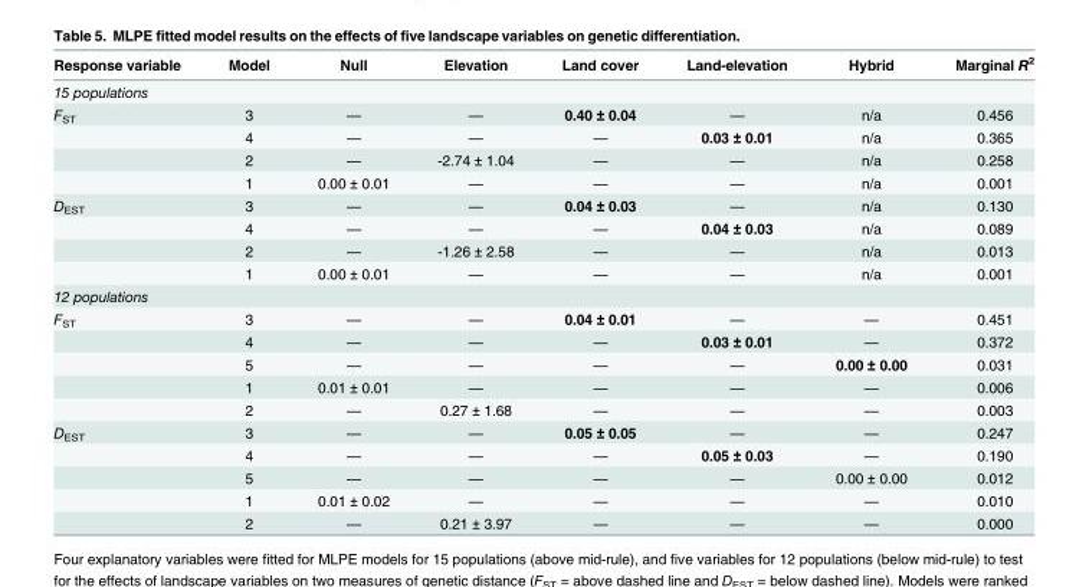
<table><thead><tr><td>Response variable</td><td>Model</td><td>Null</td><td>Elevation</td><td>Land cover</td><td>Land-elevation</td><td>Hybrid</td><td>Marginal R<sup>2</sup></td></tr></thead><tbody><tr><td colspan="8">15 populations</td></tr><tr><td rowspan="4">F<sub>ST</sub></td><td>3</td><td>—</td><td>—</td><td>0.40 ± 0.04</td><td>—</td><td>n/a</td><td>0.456</td></tr><tr><td>4</td><td>—</td><td>—</td><td>—</td><td>0.03 ± 0.01</td><td>n/a</td><td>0.365</td></tr><tr><td>2</td><td>—</td><td>-2.74 ± 1.04</td><td>—</td><td>—</td><td>n/a</td><td>0.258</td></tr><tr><td>1</td><td>0.00 ± 0.01</td><td>—</td><td>—</td><td>—</td><td>n/a</td><td>0.001</td></tr><tr><td rowspan="4">D<sub>EST</sub></td><td>3</td><td>—</td><td>—</td><td>0.04 ± 0.03</td><td>—</td><td>n/a</td><td>0.130</td></tr><tr><td>4</td><td>—</td><td>—</td><td>—</td><td>0.04 ± 0.03</td><td>n/a</td><td>0.089</td></tr><tr><td>2</td><td>—</td><td>-1.26 ± 2.58</td><td>—</td><td>—</td><td>n/a</td><td>0.013</td></tr><tr><td>1</td><td>0.00 ± 0.01</td><td>—</td><td>—</td><td>—</td><td>n/a</td><td>0.001</td></tr><tr><td colspan="8">12 populations</td></tr><tr><td rowspan="5">F<sub>ST</sub></td><td>3</td><td>—</td><td>—</td><td>0.04 ± 0.01</td><td>—</td><td>—</td><td>0.451</td></tr><tr><td>4</td><td>—</td><td>—</td><td>—</td><td>0.03 ± 0.01</td><td>—</td><td>0.372</td></tr><tr><td>5</td><td>—</td><td>—</td><td>—</td><td>—</td><td>0.00 ± 0.00</td><td>0.031</td></tr><tr><td>1</td><td>0.01 ± 0.01</td><td>—</td><td>—</td><td>—</td><td>—</td><td>0.006</td></tr><tr><td>2</td><td>—</td><td>0.27 ± 1.68</td><td>—</td><td>—</td><td>—</td><td>0.003</td></tr><tr><td rowspan="5">D<sub>EST</sub></td><td>3</td><td>—</td><td>—</td><td>0.05 ± 0.05</td><td>—</td><td>—</td><td>0.247</td></tr><tr><td>4</td><td>—</td><td>—</td><td>—</td><td>0.05 ± 0.03</td><td>—</td><td>0.190</td></tr><tr><td>5</td><td>—</td><td>—</td><td>—</td><td>—</td><td>0.00 ± 0.00</td><td>0.012</td></tr><tr><td>1</td><td>0.01 ± 0.02</td><td>—</td><td>—</td><td>—</td><td>—</td><td>0.010</td></tr><tr><td>2</td><td>—</td><td>0.21 ± 3.97</td><td>—</td><td>—</td><td>—</td><td>0.000</td></tr></tbody></table>